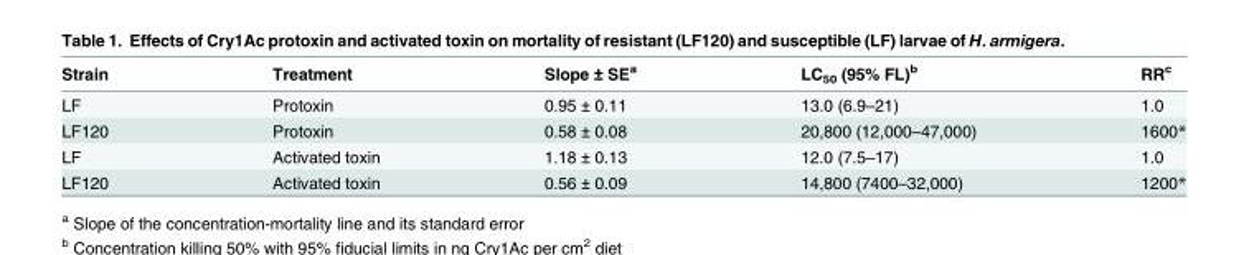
<table><thead><tr><td>Strain</td><td>Treatment</td><td>Slope ± SE<sup>a</sup></td><td>LC<sub>50</sub> (95% FL)<sup>b</sup></td><td>RR<sup>c</sup></td></tr></thead><tbody><tr><td>LF</td><td>Protoxin</td><td>0.95 ± 0.11</td><td>13.0 (6.9–21)</td><td>1.0</td></tr><tr><td>LF120</td><td>Protoxin</td><td>0.58 ± 0.08</td><td>20,800 (12,000–47,000)</td><td>1600*</td></tr><tr><td>LF</td><td>Activated toxin</td><td>1.18 ± 0.13</td><td>12.0 (7.5–17)</td><td>1.0</td></tr><tr><td>LF120</td><td>Activated toxin</td><td>0.56 ± 0.09</td><td>14,800 (7400–32,000)</td><td>1200*</td></tr></tbody></table>